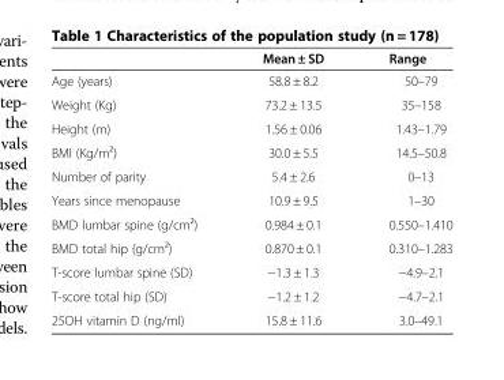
<table><thead><tr><td></td><td>Mean ± SD</td><td>Range</td></tr></thead><tbody><tr><td>Age (years)</td><td>58.8 ± 8.2</td><td>50–79</td></tr><tr><td>Weight (Kg)</td><td>73.2 ± 13.5</td><td>35–158</td></tr><tr><td>Height (m)</td><td>1.56 ± 0.06</td><td>1.43–1.79</td></tr><tr><td>BMI (Kg/m²)</td><td>30.0 ± 5.5</td><td>14.5–50.8</td></tr><tr><td>Number of parity</td><td>5.4 ± 2.6</td><td>0–13</td></tr><tr><td>Years since menopause</td><td>10.9 ± 9.5</td><td>1–30</td></tr><tr><td>BMD lumbar spine (g/cm²)</td><td>0.984 ± 0.1</td><td>0.550–1.410</td></tr><tr><td>BMD total hip (g/cm²)</td><td>0.870 ± 0.1</td><td>0.310–1.283</td></tr><tr><td>T-score lumbar spine (SD)</td><td>−1.3 ± 1.3</td><td>−4.9–2.1</td></tr><tr><td>T-score total hip (SD)</td><td>−1.2 ± 1.2</td><td>−4.7–2.1</td></tr><tr><td>25OH vitamin D (ng/ml)</td><td>15.8 ± 11.6</td><td>3.0–49.1</td></tr></tbody></table>